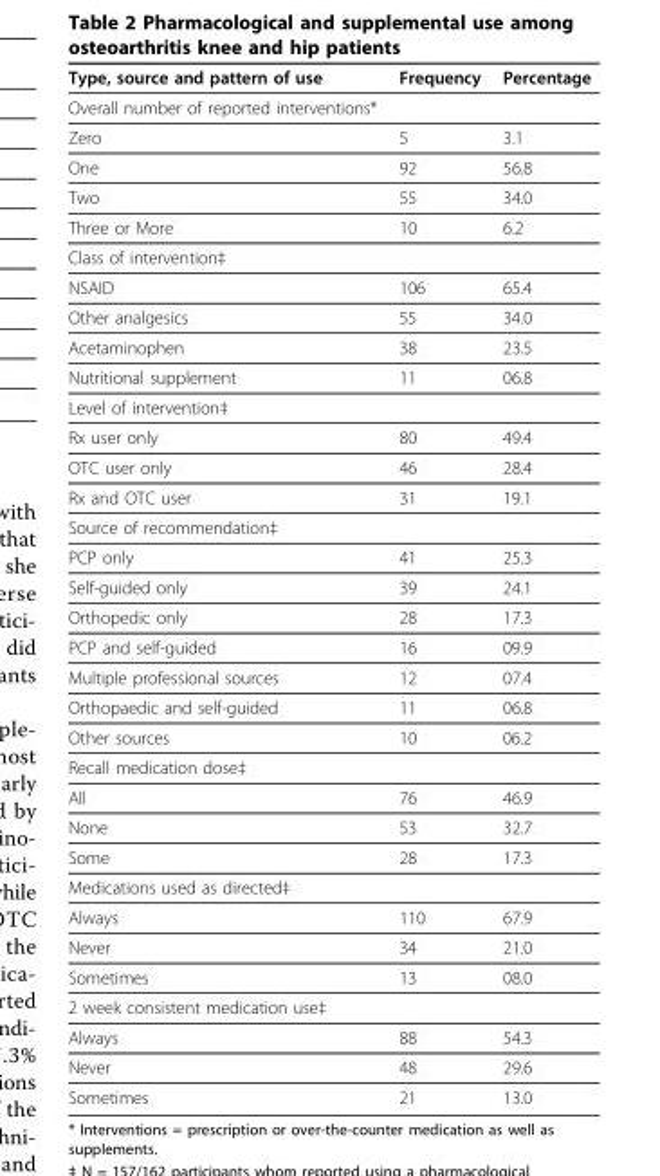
<table><thead><tr><td>Type, source and pattern of use</td><td>Frequency</td><td>Percentage</td></tr></thead><tbody><tr><td colspan="3">Overall number of reported interventions*</td></tr><tr><td>Zero</td><td>5</td><td>3.1</td></tr><tr><td>One</td><td>92</td><td>56.8</td></tr><tr><td>Two</td><td>55</td><td>34.0</td></tr><tr><td>Three or More</td><td>10</td><td>6.2</td></tr><tr><td colspan="3">Class of intervention‡</td></tr><tr><td>NSAID</td><td>106</td><td>65.4</td></tr><tr><td>Other analgesics</td><td>55</td><td>34.0</td></tr><tr><td>Acetaminophen</td><td>38</td><td>23.5</td></tr><tr><td>Nutritional supplement</td><td>11</td><td>06.8</td></tr><tr><td colspan="3">Level of intervention‡</td></tr><tr><td>Rx user only</td><td>80</td><td>49.4</td></tr><tr><td>OTC user only</td><td>46</td><td>28.4</td></tr><tr><td>Rx and OTC user</td><td>31</td><td>19.1</td></tr><tr><td colspan="3">Source of recommendation‡</td></tr><tr><td>PCP only</td><td>41</td><td>25.3</td></tr><tr><td>Self-guided only</td><td>39</td><td>24.1</td></tr><tr><td>Orthopedic only</td><td>28</td><td>17.3</td></tr><tr><td>PCP and self-guided</td><td>16</td><td>09.9</td></tr><tr><td>Multiple professional sources</td><td>12</td><td>07.4</td></tr><tr><td>Orthopaedic and self-guided</td><td>11</td><td>06.8</td></tr><tr><td>Other sources</td><td>10</td><td>06.2</td></tr><tr><td colspan="3">Recall medication dose‡</td></tr><tr><td>All</td><td>76</td><td>46.9</td></tr><tr><td>None</td><td>53</td><td>32.7</td></tr><tr><td>Some</td><td>28</td><td>17.3</td></tr><tr><td colspan="3">Medications used as directed‡</td></tr><tr><td>Always</td><td>110</td><td>67.9</td></tr><tr><td>Never</td><td>34</td><td>21.0</td></tr><tr><td>Sometimes</td><td>13</td><td>08.0</td></tr><tr><td colspan="3">2 week consistent medication use‡</td></tr><tr><td>Always</td><td>88</td><td>54.3</td></tr><tr><td>Never</td><td>48</td><td>29.6</td></tr><tr><td>Sometimes</td><td>21</td><td>13.0</td></tr></tbody></table>